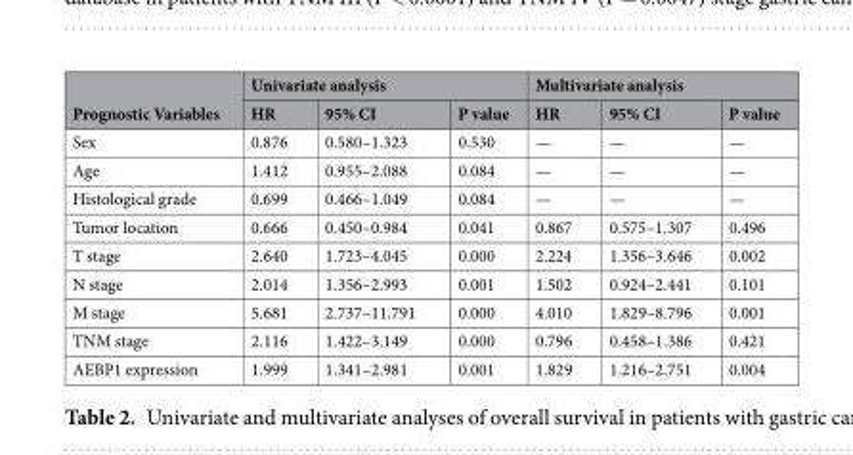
<table><thead><tr><td rowspan="2">Prognostic Variables</td><td colspan="3">Univariate analysis</td><td colspan="3">Multivariate analysis</td></tr><tr><td>HR</td><td>95% CI</td><td>P value</td><td>HR</td><td>95% CI</td><td>P value</td></tr></thead><tbody><tr><td>Sex</td><td>0.876</td><td>0.580–1.323</td><td>0.530</td><td>—</td><td>—</td><td>—</td></tr><tr><td>Age</td><td>1.412</td><td>0.955–2.088</td><td>0.084</td><td>—</td><td>—</td><td>—</td></tr><tr><td>Histological grade</td><td>0.699</td><td>0.466–1.049</td><td>0.084</td><td>—</td><td>—</td><td>—</td></tr><tr><td>Tumor location</td><td>0.666</td><td>0.450–0.984</td><td>0.041</td><td>0.867</td><td>0.575–1.307</td><td>0.496</td></tr><tr><td>T stage</td><td>2.640</td><td>1.723–4.045</td><td>0.000</td><td>2.224</td><td>1.356–3.646</td><td>0.002</td></tr><tr><td>N stage</td><td>2.014</td><td>1.356–2.993</td><td>0.001</td><td>1.502</td><td>0.924–2.441</td><td>0.101</td></tr><tr><td>M stage</td><td>5.681</td><td>2.737–11.791</td><td>0.000</td><td>4.010</td><td>1.829–8.796</td><td>0.001</td></tr><tr><td>TNM stage</td><td>2.116</td><td>1.422–3.149</td><td>0.000</td><td>0.796</td><td>0.458–1.386</td><td>0.421</td></tr><tr><td>AEBP1 expression</td><td>1.999</td><td>1.341–2.981</td><td>0.001</td><td>1.829</td><td>1.216–2.751</td><td>0.004</td></tr></tbody></table>